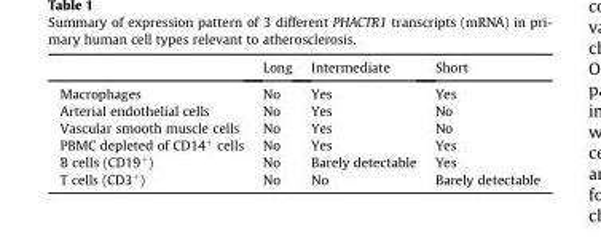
<table><thead><tr><td></td><td>Long</td><td>Intermediate</td><td>Short</td></tr></thead><tbody><tr><td>Macrophages</td><td>No</td><td>Yes</td><td>Yes</td></tr><tr><td>Arterial endothelial cells</td><td>No</td><td>Yes</td><td>No</td></tr><tr><td>Vascular smooth muscle cells</td><td>No</td><td>Yes</td><td>No</td></tr><tr><td>PBMC depleted of CD14<sup>+</sup> cells</td><td>No</td><td>Yes</td><td>Yes</td></tr><tr><td>B cells (CD19<sup>+</sup>)</td><td>No</td><td>Barely detectable</td><td>Yes</td></tr><tr><td>T cells (CD3<sup>+</sup>)</td><td>No</td><td>No</td><td>Barely detectable</td></tr></tbody></table>